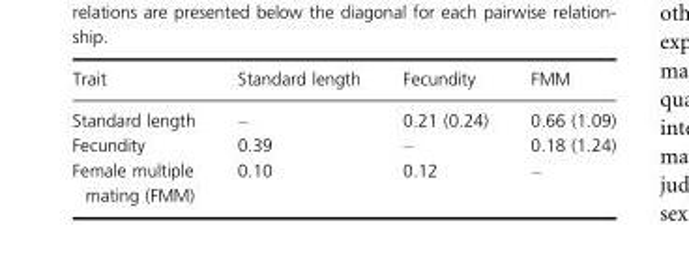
<table><thead><tr><td>Trait</td><td>Standard length</td><td>Fecundity</td><td>FMM</td></tr></thead><tbody><tr><td>Standard length</td><td>–</td><td>0.21 (0.24)</td><td>0.66 (1.09)</td></tr><tr><td>Fecundity</td><td>0.39</td><td>–</td><td>0.18 (1.24)</td></tr><tr><td>Female multiple mating (FMM)</td><td>0.10</td><td>0.12</td><td>–</td></tr></tbody></table>